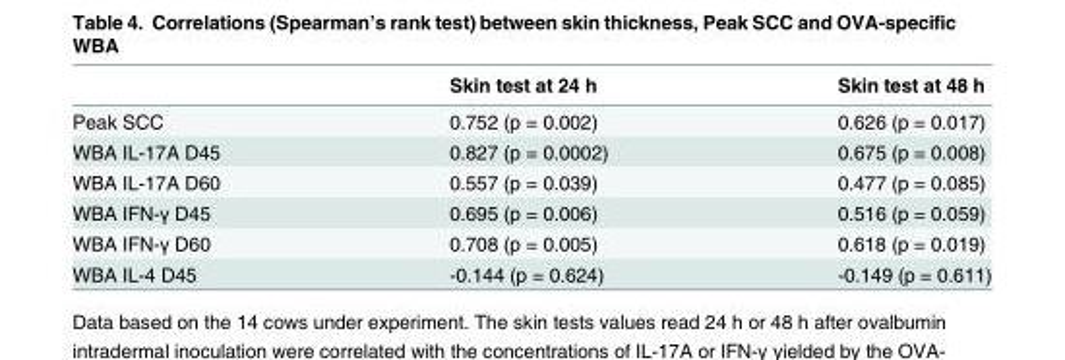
<table><thead><tr><td></td><td>Skin test at 24 h</td><td>Skin test at 48 h</td></tr></thead><tbody><tr><td>Peak SCC</td><td>0.752 (p = 0.002)</td><td>0.626 (p = 0.017)</td></tr><tr><td>WBA IL-17A D45</td><td>0.827 (p = 0.0002)</td><td>0.675 (p = 0.008)</td></tr><tr><td>WBA IL-17A D60</td><td>0.557 (p = 0.039)</td><td>0.477 (p = 0.085)</td></tr><tr><td>WBA IFN-γ D45</td><td>0.695 (p = 0.006)</td><td>0.516 (p = 0.059)</td></tr><tr><td>WBA IFN-γ D60</td><td>0.708 (p = 0.005)</td><td>0.618 (p = 0.019)</td></tr><tr><td>WBA IL-4 D45</td><td>-0.144 (p = 0.624)</td><td>-0.149 (p = 0.611)</td></tr></tbody></table>